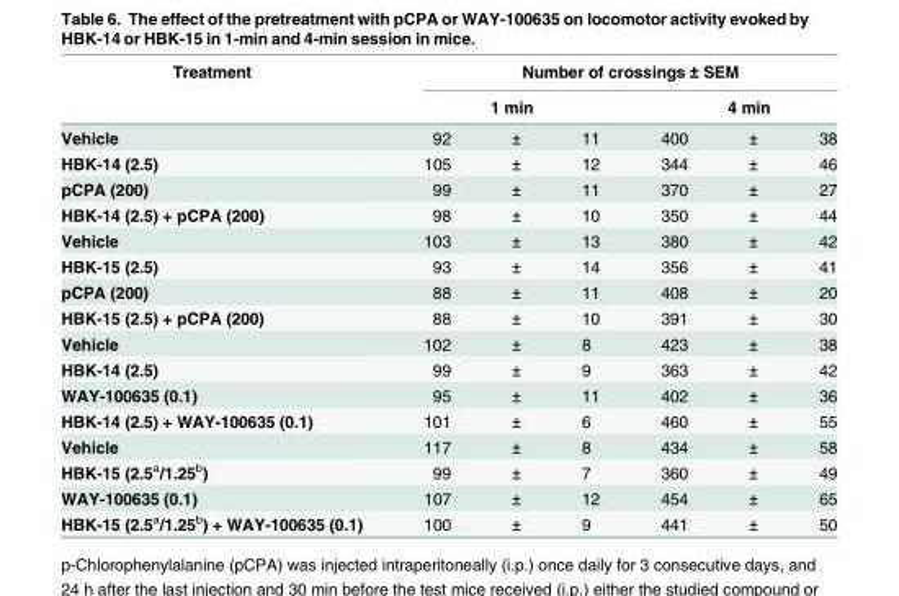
<table><thead><tr><td rowspan="3">Treatment Vehicle</td><td colspan="6">Number of crossings ± SEM</td></tr><tr><td colspan="3">1 min</td><td colspan="3">4 min</td></tr><tr><td>92</td><td>±</td><td>11</td><td>400</td><td>±</td><td>38</td></tr></thead><tbody><tr><td>HBK-14 (2.5)</td><td>105</td><td>±</td><td>12</td><td>344</td><td>±</td><td>46</td></tr><tr><td>pCPA (200)</td><td>99</td><td>±</td><td>11</td><td>370</td><td>±</td><td>27</td></tr><tr><td>HBK-14 (2.5) + pCPA (200)</td><td>98</td><td>±</td><td>10</td><td>350</td><td>±</td><td>44</td></tr><tr><td>Vehicle</td><td>103</td><td>±</td><td>13</td><td>380</td><td>±</td><td>42</td></tr><tr><td>HBK-15 (2.5)</td><td>93</td><td>±</td><td>14</td><td>356</td><td>±</td><td>41</td></tr><tr><td>pCPA (200)</td><td>88</td><td>±</td><td>11</td><td>408</td><td>±</td><td>20</td></tr><tr><td>HBK-15 (2.5) + pCPA (200)</td><td>88</td><td>±</td><td>10</td><td>391</td><td>±</td><td>30</td></tr><tr><td>Vehicle</td><td>102</td><td>±</td><td>8</td><td>423</td><td>±</td><td>38</td></tr><tr><td>HBK-14 (2.5)</td><td>99</td><td>±</td><td>9</td><td>363</td><td>±</td><td>42</td></tr><tr><td>WAY-100635 (0.1)</td><td>95</td><td>±</td><td>11</td><td>402</td><td>±</td><td>36</td></tr><tr><td>HBK-14 (2.5) + WAY-100635 (0.1)</td><td>101</td><td>±</td><td>6</td><td>460</td><td>±</td><td>55</td></tr><tr><td>Vehicle</td><td>117</td><td>±</td><td>8</td><td>434</td><td>±</td><td>58</td></tr><tr><td>HBK-15 (2.5<sup>a</sup>/1.25<sup>b</sup>)</td><td>99</td><td>±</td><td>7</td><td>360</td><td>±</td><td>49</td></tr><tr><td>WAY-100635 (0.1)</td><td>107</td><td>±</td><td>12</td><td>454</td><td>±</td><td>65</td></tr><tr><td>HBK-15 (2.5<sup>a</sup>/1.25<sup>b</sup>) + WAY-100635 (0.1)</td><td>100</td><td>±</td><td>9</td><td>441</td><td>±</td><td>50</td></tr></tbody></table>